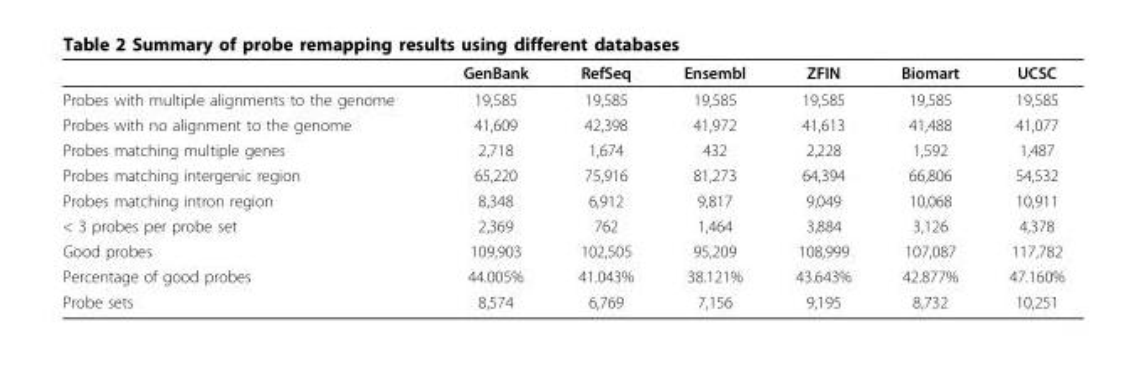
<table><thead><tr><td></td><td>GenBank</td><td>RefSeq</td><td>Ensembl</td><td>ZFIN</td><td>Biomart</td><td>UCSC</td></tr></thead><tbody><tr><td>Probes with multiple alignments to the genome</td><td>19,585</td><td>19,585</td><td>19,585</td><td>19,585</td><td>19,585</td><td>19,585</td></tr><tr><td>Probes with no alignment to the genome</td><td>41,609</td><td>42,398</td><td>41,972</td><td>41,613</td><td>41,488</td><td>41,077</td></tr><tr><td>Probes matching multiple genes</td><td>2,718</td><td>1,674</td><td>432</td><td>2,228</td><td>1,592</td><td>1,487</td></tr><tr><td>Probes matching intergenic region</td><td>65,220</td><td>75,916</td><td>81,273</td><td>64,394</td><td>66,806</td><td>54,532</td></tr><tr><td>Probes matching intron region</td><td>8,348</td><td>6,912</td><td>9,817</td><td>9,049</td><td>10,068</td><td>10,911</td></tr><tr><td>&lt; 3 probes per probe set</td><td>2,369</td><td>762</td><td>1,464</td><td>3,884</td><td>3,126</td><td>4,378</td></tr><tr><td>Good probes</td><td>109,903</td><td>102,505</td><td>95,209</td><td>108,999</td><td>107,087</td><td>117,782</td></tr><tr><td>Percentage of good probes</td><td>44.005%</td><td>41.043%</td><td>38.121%</td><td>43.643%</td><td>42.877%</td><td>47.160%</td></tr><tr><td>Probe sets</td><td>8,574</td><td>6,769</td><td>7,156</td><td>9,195</td><td>8,732</td><td>10,251</td></tr></tbody></table>